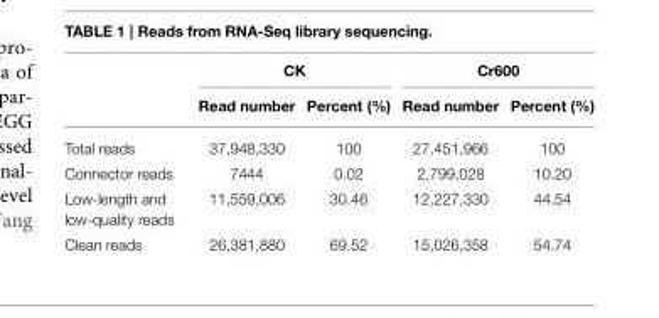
<table><thead><tr><td rowspan="2"></td><td colspan="2">CK</td><td colspan="2">Cr600</td></tr><tr><td>Read number</td><td>Percent (%)</td><td>Read number</td><td>Percent (%)</td></tr></thead><tbody><tr><td>Total reads</td><td>37,948,330</td><td>100</td><td>27,451,966</td><td>100</td></tr><tr><td>Connector reads</td><td>7444</td><td>0.02</td><td>2,799,028</td><td>10.20</td></tr><tr><td>Low-length and low-quality reads</td><td>11,559,006</td><td>30.46</td><td>12,227,330</td><td>44.54</td></tr><tr><td>Clean reads</td><td>26,381,880</td><td>69.52</td><td>15,026,358</td><td>54.74</td></tr></tbody></table>